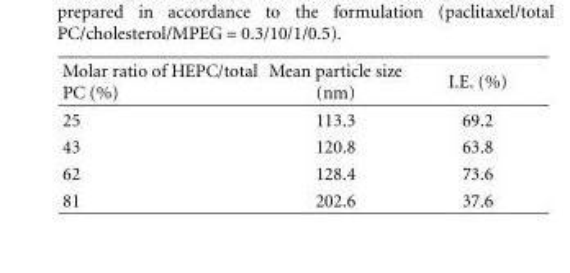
<table><thead><tr><td>Molar ratio of HEPC/total PC (%)</td><td>Mean particle size (nm)</td><td>I.E. (%)</td></tr></thead><tbody><tr><td>25</td><td>113.3</td><td>69.2</td></tr><tr><td>43</td><td>120.8</td><td>63.8</td></tr><tr><td>62</td><td>128.4</td><td>73.6</td></tr><tr><td>81</td><td>202.6</td><td>37.6</td></tr></tbody></table>